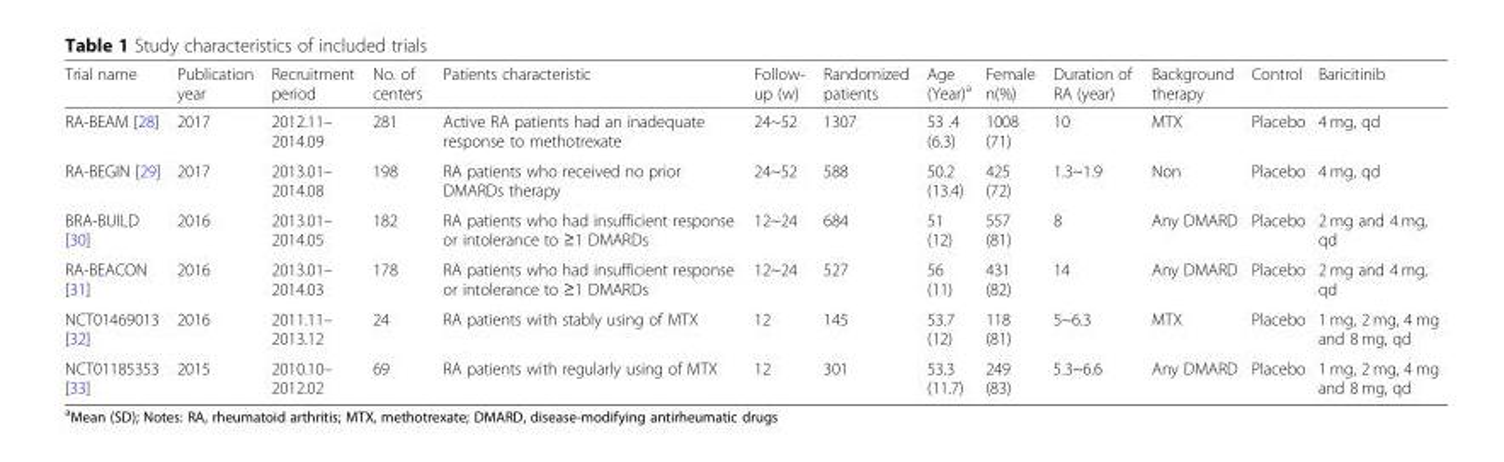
<table><thead><tr><td>Trial name</td><td>Publication year</td><td>Recruitment period</td><td>No. of centers</td><td>Patients characteristic</td><td>Follow- up (w)</td><td>Randomized patients</td><td>Age (Year)<sup>a</sup></td><td>Female n(%)</td><td>Duration of RA (year)</td><td>Background therapy</td><td>Control</td><td>Baricitinib</td></tr></thead><tbody><tr><td>RA-BEAM [28]</td><td>2017</td><td>2012.11– 2014.09</td><td>281</td><td>Active RA patients had an inadequate response to methotrexate</td><td>24~52</td><td>1307</td><td>53 .4 (6.3)</td><td>1008 (71)</td><td>10</td><td>MTX</td><td>Placebo</td><td>4 mg, qd</td></tr><tr><td>RA-BEGIN [29]</td><td>2017</td><td>2013.01– 2014.08</td><td>198</td><td>RA patients who received no prior DMARDs therapy</td><td>24~52</td><td>588</td><td>50.2 (13.4)</td><td>425 (72)</td><td>1.3~1.9</td><td>Non</td><td>Placebo</td><td>4 mg, qd</td></tr><tr><td>BRA-BUILD [30]</td><td>2016</td><td>2013.01– 2014.05</td><td>182</td><td>RA patients who had insufficient response or intolerance to ≥1 DMARDs</td><td>12~24</td><td>684</td><td>51 (12)</td><td>557 (81)</td><td>8</td><td>Any DMARD</td><td>Placebo</td><td>2 mg and 4 mg, qd</td></tr><tr><td>RA-BEACON [31]</td><td>2016</td><td>2013.01– 2014.03</td><td>178</td><td>RA patients who had insufficient response or intolerance to ≥1 DMARDs</td><td>12~24</td><td>527</td><td>56 (11)</td><td>431 (82)</td><td>14</td><td>Any DMARD</td><td>Placebo</td><td>2 mg and 4 mg, qd</td></tr><tr><td>NCT01469013 [32]</td><td>2016</td><td>2011.11– 2013.12</td><td>24</td><td>RA patients with stably using of MTX</td><td>12</td><td>145</td><td>53.7 (12)</td><td>118 (81)</td><td>5~6.3</td><td>MTX</td><td>Placebo</td><td>1 mg, 2 mg, 4 mg and 8 mg, qd</td></tr><tr><td>NCT01185353 [33]</td><td>2015</td><td>2010.10– 2012.02</td><td>69</td><td>RA patients with regularly using of MTX</td><td>12</td><td>301</td><td>53.3 (11.7)</td><td>249 (83)</td><td>5.3~6.6</td><td>Any DMARD</td><td>Placebo</td><td>1 mg, 2 mg, 4 mg and 8 mg, qd</td></tr></tbody></table>